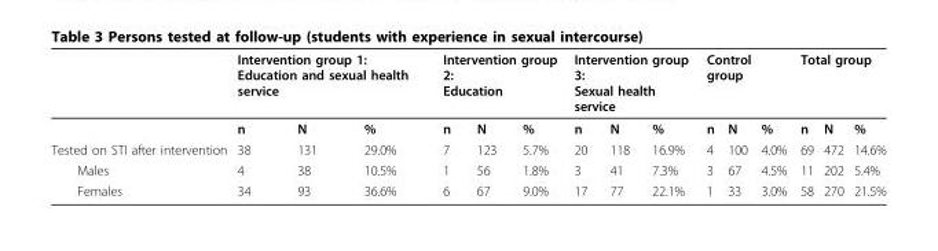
<table><thead><tr><td rowspan="2"></td><td colspan="3">Intervention group 1: Education and sexual health service</td><td colspan="3">Intervention group 2: Education</td><td colspan="3">Intervention group 3: Sexual health service</td><td colspan="3">Control group</td><td colspan="3">Total group</td></tr><tr><td>n</td><td>N</td><td>%</td><td>n</td><td>N</td><td>%</td><td>n</td><td>N</td><td>%</td><td>n</td><td>N</td><td>%</td><td>n</td><td>N</td><td>%</td></tr></thead><tbody><tr><td>Tested on STI after intervention</td><td>38</td><td>131</td><td>29.0%</td><td>7</td><td>123</td><td>5.7%</td><td>20</td><td>118</td><td>16.9%</td><td>4</td><td>100</td><td>4.0%</td><td>69</td><td>472</td><td>14.6%</td></tr><tr><td>Males</td><td>4</td><td>38</td><td>10.5%</td><td>1</td><td>56</td><td>1.8%</td><td>3</td><td>41</td><td>7.3%</td><td>3</td><td>67</td><td>4.5%</td><td>11</td><td>202</td><td>5.4%</td></tr><tr><td>Females</td><td>34</td><td>93</td><td>36.6%</td><td>6</td><td>67</td><td>9.0%</td><td>17</td><td>77</td><td>22.1%</td><td>1</td><td>33</td><td>3.0%</td><td>58</td><td>270</td><td>21.5%</td></tr></tbody></table>